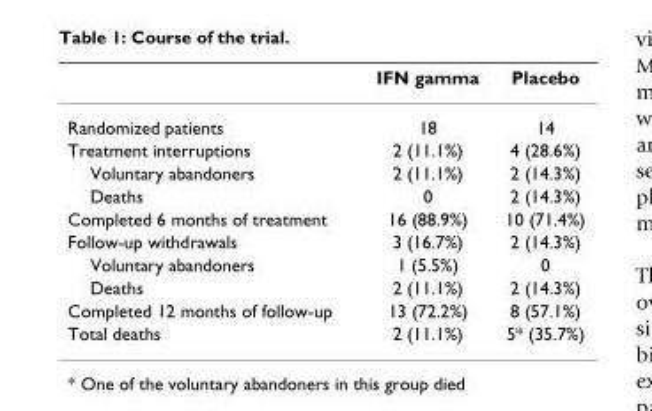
<table><thead><tr><td></td><td>IFN gamma</td><td>Placebo</td></tr></thead><tbody><tr><td>Randomized patients</td><td>18</td><td>14</td></tr><tr><td>Treatment interruptions</td><td>2 (11.1%)</td><td>4 (28.6%)</td></tr><tr><td>Voluntary abandoners</td><td>2 (11.1%)</td><td>2 (14.3%)</td></tr><tr><td>Deaths</td><td>0</td><td>2 (14.3%)</td></tr><tr><td>Completed 6 months of treatment</td><td>16 (88.9%)</td><td>10 (71.4%)</td></tr><tr><td>Follow-up withdrawals</td><td>3 (16.7%)</td><td>2 (14.3%)</td></tr><tr><td>Voluntary abandoners</td><td>1 (5.5%)</td><td>0</td></tr><tr><td>Deaths</td><td>2 (11.1%)</td><td>2 (14.3%)</td></tr><tr><td>Completed 12 months of follow-up</td><td>13 (72.2%)</td><td>8 (57.1%)</td></tr><tr><td>Total deaths</td><td>2 (11.1%)</td><td>5* (35.7%)</td></tr></tbody></table>